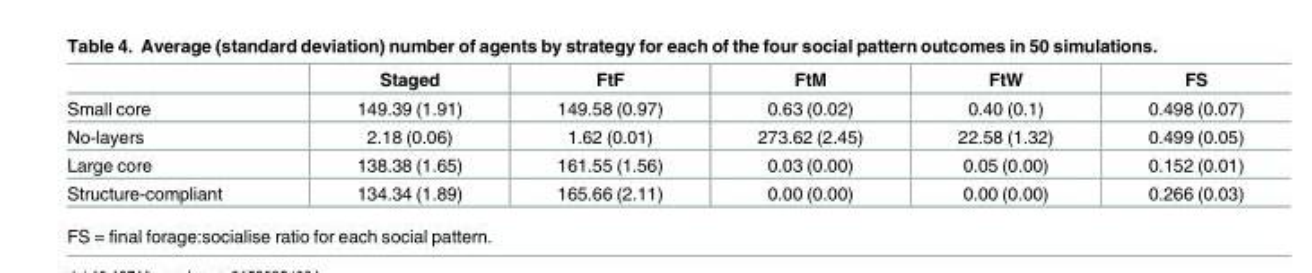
<table><thead><tr><td></td><td>Staged</td><td>FtF</td><td>FtM</td><td>FtW</td><td>FS</td></tr></thead><tbody><tr><td>Small core</td><td>149.39 (1.91)</td><td>149.58 (0.97)</td><td>0.63 (0.02)</td><td>0.40 (0.1)</td><td>0.498 (0.07)</td></tr><tr><td>No-layers</td><td>2.18 (0.06)</td><td>1.62 (0.01)</td><td>273.62 (2.45)</td><td>22.58 (1.32)</td><td>0.499 (0.05)</td></tr><tr><td>Large core</td><td>138.38 (1.65)</td><td>161.55 (1.56)</td><td>0.03 (0.00)</td><td>0.05 (0.00)</td><td>0.152 (0.01)</td></tr><tr><td>Structure-compliant</td><td>134.34 (1.89)</td><td>165.66 (2.11)</td><td>0.00 (0.00)</td><td>0.00 (0.00)</td><td>0.266 (0.03)</td></tr></tbody></table>